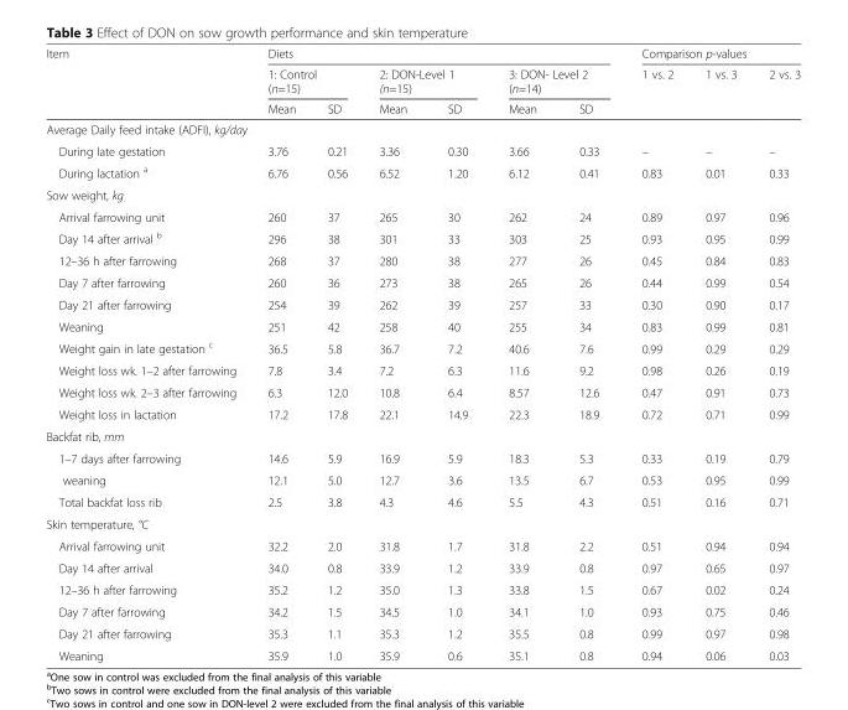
<table><thead><tr><td rowspan="3">Item</td><td colspan="6">Diets</td><td colspan="3">Comparison p-values</td></tr><tr><td colspan="2">1: Control (n=15)</td><td colspan="2">2: DON-Level 1 (n=15)</td><td colspan="2">3: DON- Level 2 (n=14)</td><td rowspan="2">1 vs. 2</td><td rowspan="2">1 vs. 3</td><td rowspan="2">2 vs. 3</td></tr><tr><td>Mean</td><td>SD</td><td>Mean</td><td>SD</td><td>Mean</td><td>SD</td></tr></thead><tbody><tr><td colspan="10">Average Daily feed intake (ADFI), kg/day</td></tr><tr><td>During late gestation</td><td>3.76</td><td>0.21</td><td>3.36</td><td>0.30</td><td>3.66</td><td>0.33</td><td>–</td><td>–</td><td>–</td></tr><tr><td>During lactation <sup>a</sup></td><td>6.76</td><td>0.56</td><td>6.52</td><td>1.20</td><td>6.12</td><td>0.41</td><td>0.83</td><td>0.01</td><td>0.33</td></tr><tr><td colspan="10">Sow weight, kg</td></tr><tr><td>Arrival farrowing unit</td><td>260</td><td>37</td><td>265</td><td>30</td><td>262</td><td>24</td><td>0.89</td><td>0.97</td><td>0.96</td></tr><tr><td>Day 14 after arrival <sup>b</sup></td><td>296</td><td>38</td><td>301</td><td>33</td><td>303</td><td>25</td><td>0.93</td><td>0.95</td><td>0.99</td></tr><tr><td>12–36 h after farrowing</td><td>268</td><td>37</td><td>280</td><td>38</td><td>277</td><td>26</td><td>0.45</td><td>0.84</td><td>0.83</td></tr><tr><td>Day 7 after farrowing</td><td>260</td><td>36</td><td>273</td><td>38</td><td>265</td><td>26</td><td>0.44</td><td>0.99</td><td>0.54</td></tr><tr><td>Day 21 after farrowing</td><td>254</td><td>39</td><td>262</td><td>39</td><td>257</td><td>33</td><td>0.30</td><td>0.90</td><td>0.17</td></tr><tr><td>Weaning</td><td>251</td><td>42</td><td>258</td><td>40</td><td>255</td><td>34</td><td>0.83</td><td>0.99</td><td>0.81</td></tr><tr><td>Weight gain in late gestation <sup>c</sup></td><td>36.5</td><td>5.8</td><td>36.7</td><td>7.2</td><td>40.6</td><td>7.6</td><td>0.99</td><td>0.29</td><td>0.29</td></tr><tr><td>Weight loss wk. 1–2 after farrowing</td><td>7.8</td><td>3.4</td><td>7.2</td><td>6.3</td><td>11.6</td><td>9.2</td><td>0.98</td><td>0.26</td><td>0.19</td></tr><tr><td>Weight loss wk. 2–3 after farrowing</td><td>6.3</td><td>12.0</td><td>10.8</td><td>6.4</td><td>8.57</td><td>12.6</td><td>0.47</td><td>0.91</td><td>0.73</td></tr><tr><td>Weight loss in lactation</td><td>17.2</td><td>17.8</td><td>22.1</td><td>14.9</td><td>22.3</td><td>18.9</td><td>0.72</td><td>0.71</td><td>0.99</td></tr><tr><td colspan="10">Backfat rib, mm</td></tr><tr><td>1–7 days after farrowing</td><td>14.6</td><td>5.9</td><td>16.9</td><td>5.9</td><td>18.3</td><td>5.3</td><td>0.33</td><td>0.19</td><td>0.79</td></tr><tr><td>weaning</td><td>12.1</td><td>5.0</td><td>12.7</td><td>3.6</td><td>13.5</td><td>6.7</td><td>0.53</td><td>0.95</td><td>0.99</td></tr><tr><td>Total backfat loss rib</td><td>2.5</td><td>3.8</td><td>4.3</td><td>4.6</td><td>5.5</td><td>4.3</td><td>0.51</td><td>0.16</td><td>0.71</td></tr><tr><td colspan="10">Skin temperature, °C</td></tr><tr><td>Arrival farrowing unit</td><td>32.2</td><td>2.0</td><td>31.8</td><td>1.7</td><td>31.8</td><td>2.2</td><td>0.51</td><td>0.94</td><td>0.94</td></tr><tr><td>Day 14 after arrival</td><td>34.0</td><td>0.8</td><td>33.9</td><td>1.2</td><td>33.9</td><td>0.8</td><td>0.97</td><td>0.65</td><td>0.97</td></tr><tr><td>12–36 h after farrowing</td><td>35.2</td><td>1.2</td><td>35.0</td><td>1.3</td><td>33.8</td><td>1.5</td><td>0.67</td><td>0.02</td><td>0.24</td></tr><tr><td>Day 7 after farrowing</td><td>34.2</td><td>1.5</td><td>34.5</td><td>1.0</td><td>34.1</td><td>1.0</td><td>0.93</td><td>0.75</td><td>0.46</td></tr><tr><td>Day 21 after farrowing</td><td>35.3</td><td>1.1</td><td>35.3</td><td>1.2</td><td>35.5</td><td>0.8</td><td>0.99</td><td>0.97</td><td>0.98</td></tr><tr><td>Weaning</td><td>35.9</td><td>1.0</td><td>35.9</td><td>0.6</td><td>35.1</td><td>0.8</td><td>0.94</td><td>0.06</td><td>0.03</td></tr></tbody></table>